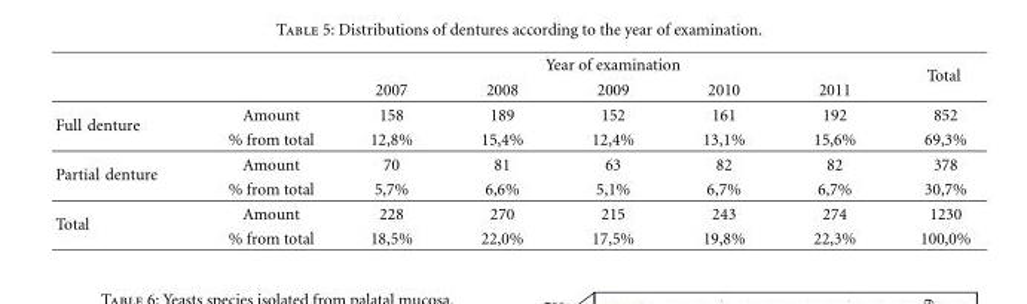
<table><thead><tr><td rowspan="2"></td><td rowspan="2"></td><td colspan="5">Year of examination</td><td rowspan="2">Total</td></tr><tr><td>2007</td><td>2008</td><td>2009</td><td>2010</td><td>2011</td></tr></thead><tbody><tr><td rowspan="2">Full denture</td><td>Amount</td><td>158</td><td>189</td><td>152</td><td>161</td><td>192</td><td>852</td></tr><tr><td>% from total</td><td>12,8%</td><td>15,4%</td><td>12,4%</td><td>13,1%</td><td>15,6%</td><td>69,3%</td></tr><tr><td rowspan="2">Partial denture</td><td>Amount</td><td>70</td><td>81</td><td>63</td><td>82</td><td>82</td><td>378</td></tr><tr><td>% from total</td><td>5,7%</td><td>6,6%</td><td>5,1%</td><td>6,7%</td><td>6,7%</td><td>30,7%</td></tr><tr><td rowspan="2">Total</td><td>Amount</td><td>228</td><td>270</td><td>215</td><td>243</td><td>274</td><td>1230</td></tr><tr><td>% from total</td><td>18,5%</td><td>22,0%</td><td>17,5%</td><td>19,8%</td><td>22,3%</td><td>100,0%</td></tr></tbody></table>